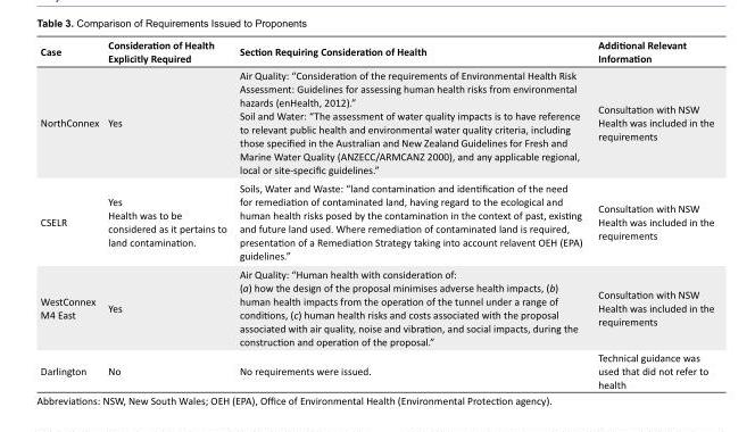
<table><tbody><tr><td>Case</td><td>Consideration of Health Explicitly Required</td><td>Section Requiring Consideration of Health</td><td>Additional Relevant Information</td></tr><tr><td>NorthConnex</td><td>Yes</td><td>Air Quality: “Consideration of the requirements of Environmental Health Risk Assessment: Guidelines for assessing human health risks from environmental hazards (enHealth, 2012).” Soil and Water: “The assessment of water quality impacts is to have reference to relevant public health and environmental water quality criteria, including those specified in the Australian and New Zealand Guidelines for Fresh and Marine Water Quality (ANZECC/ARMCANZ 2000), and any applicable regional, local or site-specific guidelines.”</td><td>Consultation with NSW Health was included in the requirements</td></tr><tr><td>CSELR</td><td>Yes Health was to be considered as it pertains to land contamination.</td><td>Soils, Water and Waste: “land contamination and identification of the need for remediation of contaminated land, having regard to the ecological and human health risks posed by the contamination in the context of past, existing and future land used. Where remediation of contaminated land is required, presentation of a Remediation Strategy taking into account relavent OEH (EPA) guidelines.”</td><td>Consultation with NSW Health was included in the requirements</td></tr><tr><td>WestConnex M4 East</td><td>Yes</td><td>Air Quality: “Human health with consideration of: (a) how the design of the proposal minimises adverse health impacts, (b) human health impacts from the operation of the tunnel under a range of conditions, (c) human health risks and costs associated with the proposal associated with air quality, noise and vibration, and social impacts, during the construction and operation of the proposal.”</td><td>Consultation with NSW Health was included in the requirements</td></tr><tr><td>Darlington</td><td>No</td><td>No requirements were issued.</td><td>Technical guidance was used that did not refer to health</td></tr></tbody></table>